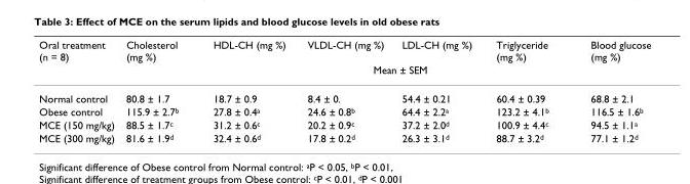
<table><thead><tr><td rowspan="2">Oral treatment (n = 8)</td><td>Cholesterol (mg %)</td><td>HDL-CH (mg %)</td><td>VLDL-CH (mg %)</td><td>LDL-CH (mg %)</td><td>Triglyceride (mg %)</td><td>Blood glucose (mg %)</td></tr><tr><td colspan="6">Mean ± SEM</td></tr></thead><tbody><tr><td>Normal control</td><td>80.8 ± 1.7</td><td>18.7 ± 0.9</td><td>8.4 ± 0.</td><td>54.4 ± 0.21</td><td>60.4 ± 0.39</td><td>68.8 ± 2.1</td></tr><tr><td>Obese control</td><td>115.9 ± 2.7<sup>b</sup></td><td>27.8 ± 0.4<sup>a</sup></td><td>24.6 ± 0.8<sup>b</sup></td><td>64.4 ± 2.2<sup>a</sup></td><td>123.2 ± 4.1<sup>b</sup></td><td>116.5 ± 1.6<sup>b</sup></td></tr><tr><td>MCE (150 mg/kg)</td><td>88.5 ± 1.7<sup>c</sup></td><td>31.2 ± 0.6<sup>c</sup></td><td>20.2 ± 0.9<sup>c</sup></td><td>37.2 ± 2.0<sup>d</sup></td><td>100.9 ± 4.4<sup>c</sup></td><td>94.5 ± 1.1<sup>a</sup></td></tr><tr><td>MCE (300 mg/kg)</td><td>81.6 ± 1.9<sup>d</sup></td><td>32.4 ± 0.6<sup>d</sup></td><td>17.8 ± 0.2<sup>d</sup></td><td>26.3 ± 3.1<sup>d</sup></td><td>88.7 ± 3.2<sup>d</sup></td><td>77.1 ± 1.2<sup>d</sup></td></tr></tbody></table>